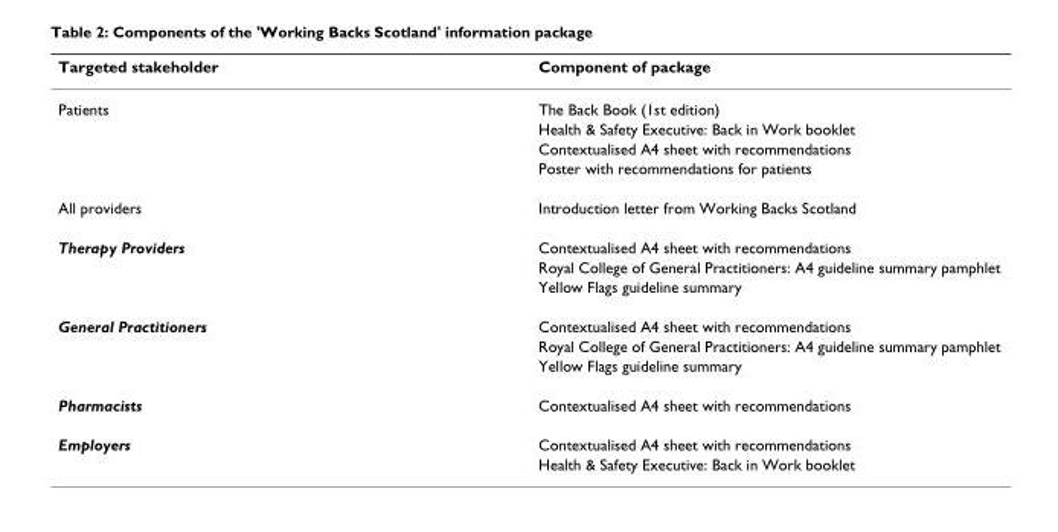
<table><thead><tr><td>Targeted stakeholder</td><td>Component of package</td></tr></thead><tbody><tr><td rowspan="4">Patients</td><td>The Back Book (1st edition)</td></tr><tr><td>Health &amp; Safety Executive: Back in Work booklet</td></tr><tr><td>Contextualised A4 sheet with recommendations</td></tr><tr><td>Poster with recommendations for patients</td></tr><tr><td>All providers</td><td>Introduction letter from Working Backs Scotland</td></tr><tr><td rowspan="3">Therapy Providers</td><td>Contextualised A4 sheet with recommendations</td></tr><tr><td>Royal College of General Practitioners: A4 guideline summary pamphlet</td></tr><tr><td>Yellow Flags guideline summary</td></tr><tr><td rowspan="3">General Practitioners</td><td>Contextualised A4 sheet with recommendations</td></tr><tr><td>Royal College of General Practitioners: A4 guideline summary pamphlet</td></tr><tr><td>Yellow Flags guideline summary</td></tr><tr><td>Pharmacists</td><td>Contextualised A4 sheet with recommendations</td></tr><tr><td rowspan="2">Employers</td><td>Contextualised A4 sheet with recommendations</td></tr><tr><td>Health &amp; Safety Executive: Back in Work booklet</td></tr></tbody></table>